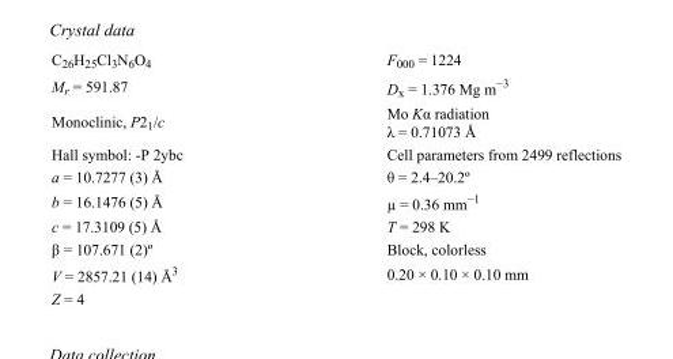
<table><tbody><tr><td>C<sub>26</sub>H<sub>25</sub>Cl<sub>3</sub>N<sub>6</sub>O<sub>4</sub></td><td>F000 = 1224</td></tr><tr><td>M<sub>r</sub> = 591.87</td><td>D<sub>x</sub> = 1.376 Mg m<sup>−3</sup></td></tr><tr><td>Monoclinic, P2<sub>1</sub>/c</td><td>Mo Kα radiation λ = 0.71073 Å</td></tr><tr><td>Hall symbol: -P 2ybc</td><td>Cell parameters from 2499 reflections</td></tr><tr><td>a = 10.7277 (3) Å</td><td>θ = 2.4–20.2º</td></tr><tr><td>b = 16.1476 (5) Å</td><td>µ = 0.36 mm<sup>−1</sup></td></tr><tr><td>c = 17.3109 (5) Å</td><td>T = 298 K</td></tr><tr><td>β = 107.671 (2)º</td><td>Block, colorless</td></tr><tr><td>V = 2857.21 (14) Å<sup>3</sup></td><td>0.20 × 0.10 × 0.10 mm</td></tr><tr><td>Z = 4</td><td></td></tr></tbody></table>